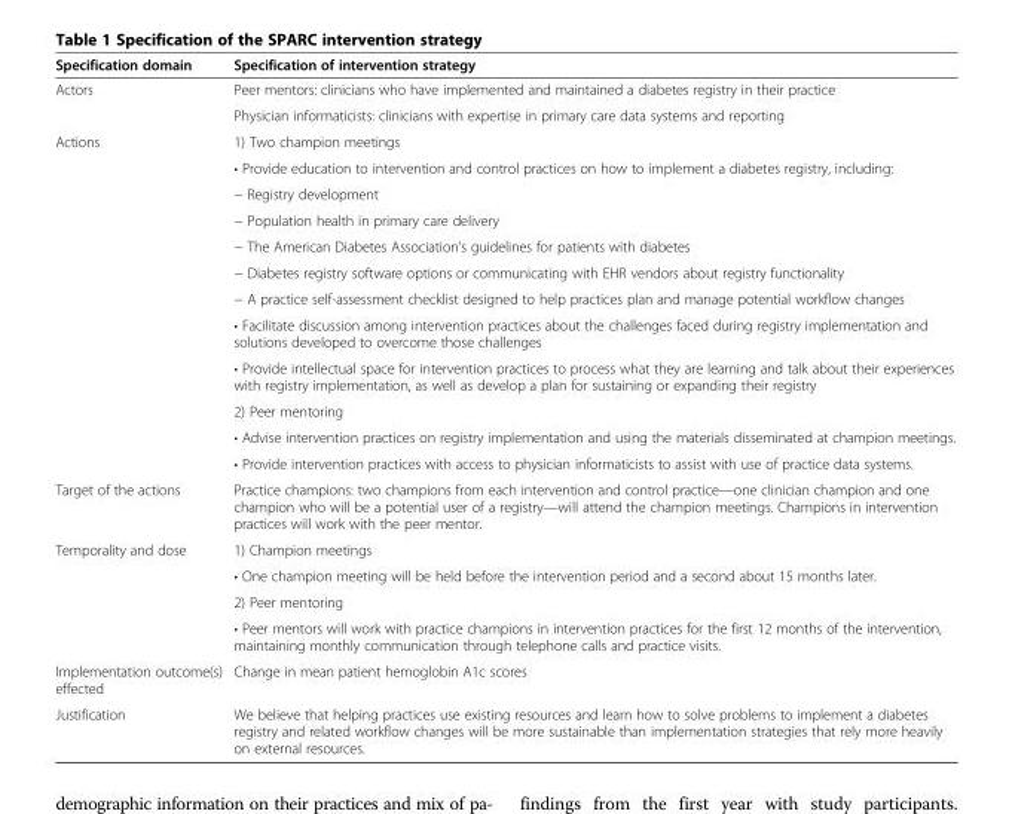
<table><thead><tr><td>Specification domain</td><td>Specification of intervention strategy</td></tr></thead><tbody><tr><td rowspan="2">Actors</td><td>Peer mentors: clinicians who have implemented and maintained a diabetes registry in their practice</td></tr><tr><td>Physician informaticists: clinicians with expertise in primary care data systems and reporting</td></tr><tr><td rowspan="12">Actions</td><td>1) Two champion meetings</td></tr><tr><td>• Provide education to intervention and control practices on how to implement a diabetes registry, including:</td></tr><tr><td>− Registry development</td></tr><tr><td>− Population health in primary care delivery</td></tr><tr><td>− The American Diabetes Association’s guidelines for patients with diabetes</td></tr><tr><td>− Diabetes registry software options or communicating with EHR vendors about registry functionality</td></tr><tr><td>− A practice self-assessment checklist designed to help practices plan and manage potential workflow changes</td></tr><tr><td>• Facilitate discussion among intervention practices about the challenges faced during registry implementation and solutions developed to overcome those challenges</td></tr><tr><td>• Provide intellectual space for intervention practices to process what they are learning and talk about their experiences with registry implementation, as well as develop a plan for sustaining or expanding their registry</td></tr><tr><td>2) Peer mentoring</td></tr><tr><td>• Advise intervention practices on registry implementation and using the materials disseminated at champion meetings.</td></tr><tr><td>• Provide intervention practices with access to physician informaticists to assist with use of practice data systems.</td></tr><tr><td>Target of the actions</td><td>Practice champions: two champions from each intervention and control practice—one clinician champion and one champion who will be a potential user of a registry—will attend the champion meetings. Champions in intervention practices will work with the peer mentor.</td></tr><tr><td rowspan="4">Temporality and dose</td><td>1) Champion meetings</td></tr><tr><td>• One champion meeting will be held before the intervention period and a second about 15 months later.</td></tr><tr><td>2) Peer mentoring</td></tr><tr><td>• Peer mentors will work with practice champions in intervention practices for the first 12 months of the intervention, maintaining monthly communication through telephone calls and practice visits.</td></tr><tr><td>Implementation outcome(s) effected</td><td>Change in mean patient hemoglobin A1c scores</td></tr><tr><td>Justification</td><td>We believe that helping practices use existing resources and learn how to solve problems to implement a diabetes registry and related workflow changes will be more sustainable than implementation strategies that rely more heavily on external resources.</td></tr></tbody></table>